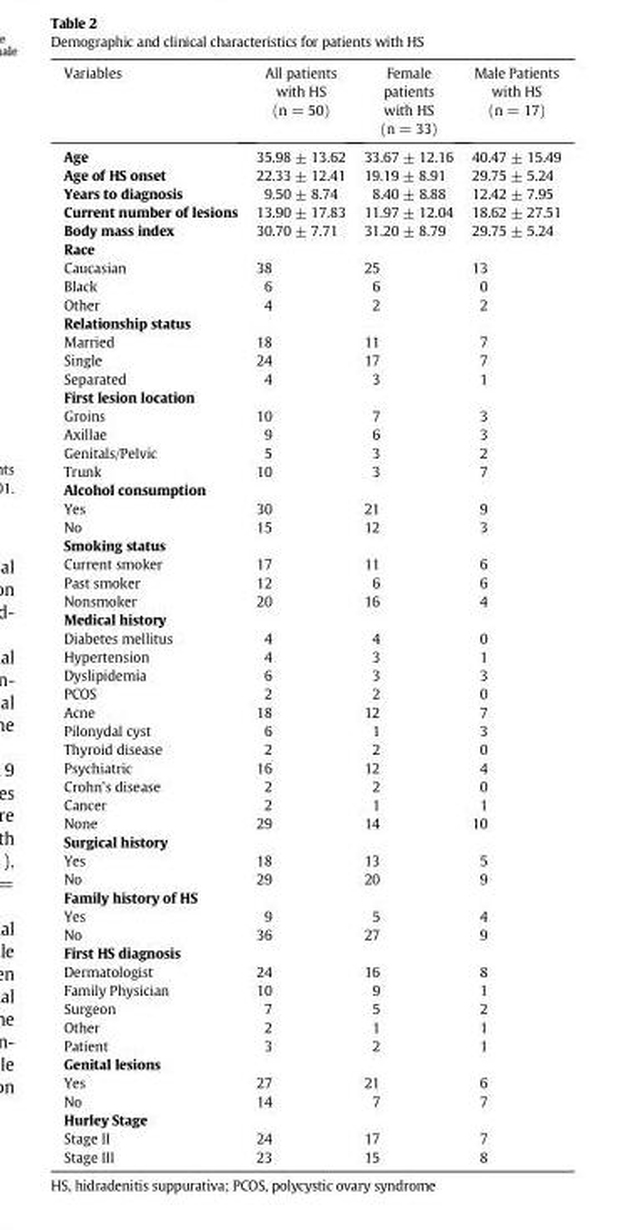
<table><thead><tr><td>Variables</td><td>All patients with HS (n = 50)</td><td>Female patients with HS (n = 33)</td><td>Male Patients with HS (n = 17)</td></tr></thead><tbody><tr><td>Age</td><td>35.98 ± 13.62</td><td>33.67 ± 12.16</td><td>40.47 ± 15.49</td></tr><tr><td>Age of HS onset</td><td>22.33 ± 12.41</td><td>19.19 ± 8.91</td><td>29.75 ± 5.24</td></tr><tr><td>Years to diagnosis</td><td>9.50 ± 8.74</td><td>8.40 ± 8.88</td><td>12.42 ± 7.95</td></tr><tr><td>Current number of lesions</td><td>13.90 ± 17.83</td><td>11.97 ± 12.04</td><td>18.62 ± 27.51</td></tr><tr><td>Body mass index</td><td>30.70 ± 7.71</td><td>31.20 ± 8.79</td><td>29.75 ± 5.24</td></tr><tr><td colspan="4">Race</td></tr><tr><td>Caucasian</td><td>38</td><td>25</td><td>13</td></tr><tr><td>Black</td><td>6</td><td>6</td><td>0</td></tr><tr><td>Other</td><td>4</td><td>2</td><td>2</td></tr><tr><td colspan="4">Relationship status</td></tr><tr><td>Married</td><td>18</td><td>11</td><td>7</td></tr><tr><td>Single</td><td>24</td><td>17</td><td>7</td></tr><tr><td>Separated</td><td>4</td><td>3</td><td>1</td></tr><tr><td colspan="4">First lesion location</td></tr><tr><td>Groins</td><td>10</td><td>7</td><td>3</td></tr><tr><td>Axillae</td><td>9</td><td>6</td><td>3</td></tr><tr><td>Genitals/Pelvic</td><td>5</td><td>3</td><td>2</td></tr><tr><td>Trunk</td><td>10</td><td>3</td><td>7</td></tr><tr><td colspan="4">Alcohol consumption</td></tr><tr><td>Yes</td><td>30</td><td>21</td><td>9</td></tr><tr><td>No</td><td>15</td><td>12</td><td>3</td></tr><tr><td colspan="4">Smoking status</td></tr><tr><td>Current smoker</td><td>17</td><td>11</td><td>6</td></tr><tr><td>Past smoker</td><td>12</td><td>6</td><td>6</td></tr><tr><td>Nonsmoker</td><td>20</td><td>16</td><td>4</td></tr><tr><td colspan="4">Medical history</td></tr><tr><td>Diabetes mellitus</td><td>4</td><td>4</td><td>0</td></tr><tr><td>Hypertension</td><td>4</td><td>3</td><td>1</td></tr><tr><td>Dyslipidemia</td><td>6</td><td>3</td><td>3</td></tr><tr><td>PCOS</td><td>2</td><td>2</td><td>0</td></tr><tr><td>Acne</td><td>18</td><td>12</td><td>7</td></tr><tr><td>Pilonydal cyst</td><td>6</td><td>1</td><td>3</td></tr><tr><td>Thyroid disease</td><td>2</td><td>2</td><td>0</td></tr><tr><td>Psychiatric</td><td>16</td><td>12</td><td>4</td></tr><tr><td>Crohn’s disease</td><td>2</td><td>2</td><td>0</td></tr><tr><td>Cancer</td><td>2</td><td>1</td><td>1</td></tr><tr><td>None</td><td>29</td><td>14</td><td>10</td></tr><tr><td colspan="4">Surgical history</td></tr><tr><td>Yes</td><td>18</td><td>13</td><td>5</td></tr><tr><td>No</td><td>29</td><td>20</td><td>9</td></tr><tr><td colspan="4">Family history of HS</td></tr><tr><td>Yes</td><td>9</td><td>5</td><td>4</td></tr><tr><td>No</td><td>36</td><td>27</td><td>9</td></tr><tr><td colspan="4">First HS diagnosis</td></tr><tr><td>Dermatologist</td><td>24</td><td>16</td><td>8</td></tr><tr><td>Family Physician</td><td>10</td><td>9</td><td>1</td></tr><tr><td>Surgeon</td><td>7</td><td>5</td><td>2</td></tr><tr><td>Other</td><td>2</td><td>1</td><td>1</td></tr><tr><td>Patient</td><td>3</td><td>2</td><td>1</td></tr><tr><td colspan="4">Genital lesions</td></tr><tr><td>Yes</td><td>27</td><td>21</td><td>6</td></tr><tr><td>No</td><td>14</td><td>7</td><td>7</td></tr><tr><td colspan="4">Hurley Stage</td></tr><tr><td>Stage II</td><td>24</td><td>17</td><td>7</td></tr><tr><td>Stage III</td><td>23</td><td>15</td><td>8</td></tr></tbody></table>